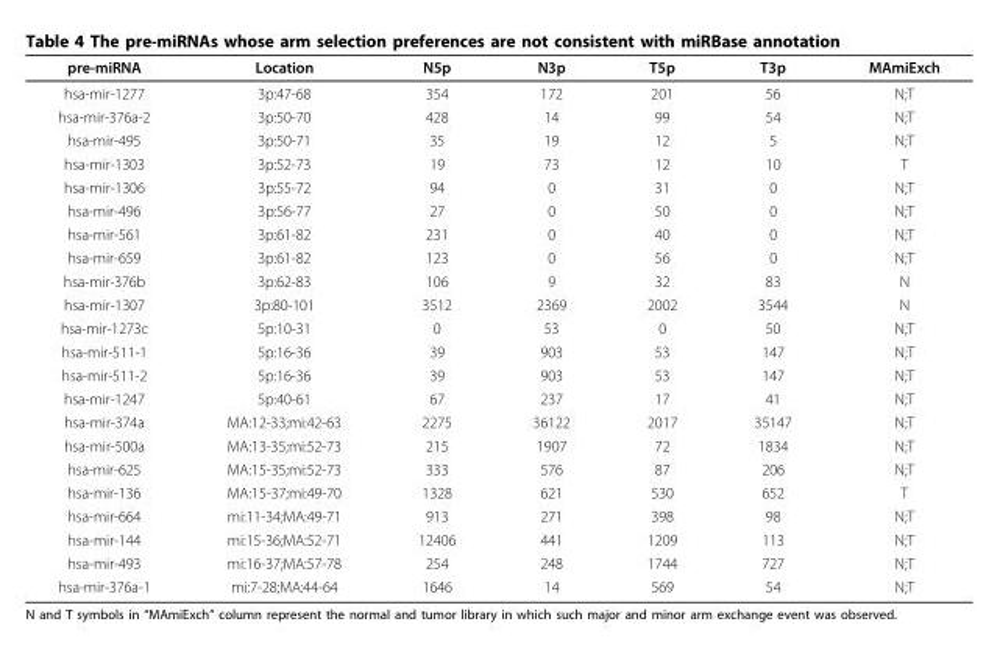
<table><thead><tr><td>pre-miRNA</td><td>Location</td><td>N5p</td><td>N3p</td><td>T5p</td><td>T3p</td><td>MAmiExch</td></tr></thead><tbody><tr><td>hsa-mir-1277</td><td>3p:47-68</td><td>354</td><td>172</td><td>201</td><td>56</td><td>N;T</td></tr><tr><td>hsa-mir-376a-2</td><td>3p:50-70</td><td>428</td><td>14</td><td>99</td><td>54</td><td>N;T</td></tr><tr><td>hsa-mir-495</td><td>3p:50-71</td><td>35</td><td>19</td><td>12</td><td>5</td><td>N;T</td></tr><tr><td>hsa-mir-1303</td><td>3p:52-73</td><td>19</td><td>73</td><td>12</td><td>10</td><td>T</td></tr><tr><td>hsa-mir-1306</td><td>3p:55-72</td><td>94</td><td>0</td><td>31</td><td>0</td><td>N;T</td></tr><tr><td>hsa-mir-496</td><td>3p:56-77</td><td>27</td><td>0</td><td>50</td><td>0</td><td>N;T</td></tr><tr><td>hsa-mir-561</td><td>3p:61-82</td><td>231</td><td>0</td><td>40</td><td>0</td><td>N;T</td></tr><tr><td>hsa-mir-659</td><td>3p:61-82</td><td>123</td><td>0</td><td>56</td><td>0</td><td>N;T</td></tr><tr><td>hsa-mir-376b</td><td>3p:62-83</td><td>106</td><td>9</td><td>32</td><td>83</td><td>N</td></tr><tr><td>hsa-mir-1307</td><td>3p:80-101</td><td>3512</td><td>2369</td><td>2002</td><td>3544</td><td>N</td></tr><tr><td>hsa-mir-1273c</td><td>5p:10-31</td><td>0</td><td>53</td><td>0</td><td>50</td><td>N;T</td></tr><tr><td>hsa-mir-511-1</td><td>5p:16-36</td><td>39</td><td>903</td><td>53</td><td>147</td><td>N;T</td></tr><tr><td>hsa-mir-511-2</td><td>5p:16-36</td><td>39</td><td>903</td><td>53</td><td>147</td><td>N;T</td></tr><tr><td>hsa-mir-1247</td><td>5p:40-61</td><td>67</td><td>237</td><td>17</td><td>41</td><td>N;T</td></tr><tr><td>hsa-mir-374a</td><td>MA:12-33;mi:42-63</td><td>2275</td><td>36122</td><td>2017</td><td>35147</td><td>N;T</td></tr><tr><td>hsa-mir-500a</td><td>MA:13-35;mi:52-73</td><td>215</td><td>1907</td><td>72</td><td>1834</td><td>N;T</td></tr><tr><td>hsa-mir-625</td><td>MA:15-35;mi:52-73</td><td>333</td><td>576</td><td>87</td><td>206</td><td>N;T</td></tr><tr><td>hsa-mir-136</td><td>MA:15-37;mi:49-70</td><td>1328</td><td>621</td><td>530</td><td>652</td><td>T</td></tr><tr><td>hsa-mir-664</td><td>mi:11-34;MA:49-71</td><td>913</td><td>271</td><td>398</td><td>98</td><td>N;T</td></tr><tr><td>hsa-mir-144</td><td>mi:15-36;MA:52-71</td><td>12406</td><td>441</td><td>1209</td><td>113</td><td>N;T</td></tr><tr><td>hsa-mir-493</td><td>mi:16-37;MA:57-78</td><td>254</td><td>248</td><td>1744</td><td>727</td><td>N;T</td></tr><tr><td>hsa-mir-376a-1</td><td>mi:7-28;MA:44-64</td><td>1646</td><td>14</td><td>569</td><td>54</td><td>N;T</td></tr></tbody></table>